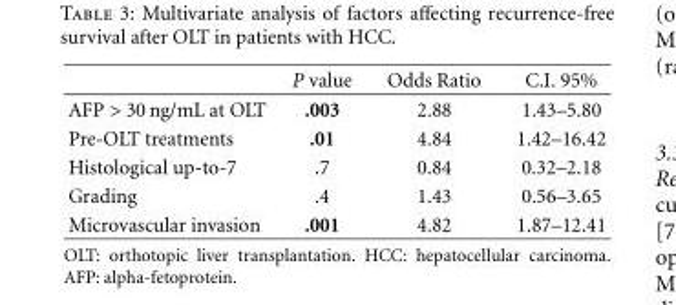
<table><thead><tr><td></td><td>P value</td><td>Odds Ratio</td><td>C.I. 95%</td></tr></thead><tbody><tr><td>AFP &gt; 30 ng/mL at OLT</td><td>.003</td><td>2.88</td><td>1.43–5.80</td></tr><tr><td>Pre-OLT treatments</td><td>.01</td><td>4.84</td><td>1.42–16.42</td></tr><tr><td>Histological up-to-7</td><td>.7</td><td>0.84</td><td>0.32–2.18</td></tr><tr><td>Grading</td><td>.4</td><td>1.43</td><td>0.56–3.65</td></tr><tr><td>Microvascular invasion</td><td>.001</td><td>4.82</td><td>1.87–12.41</td></tr></tbody></table>